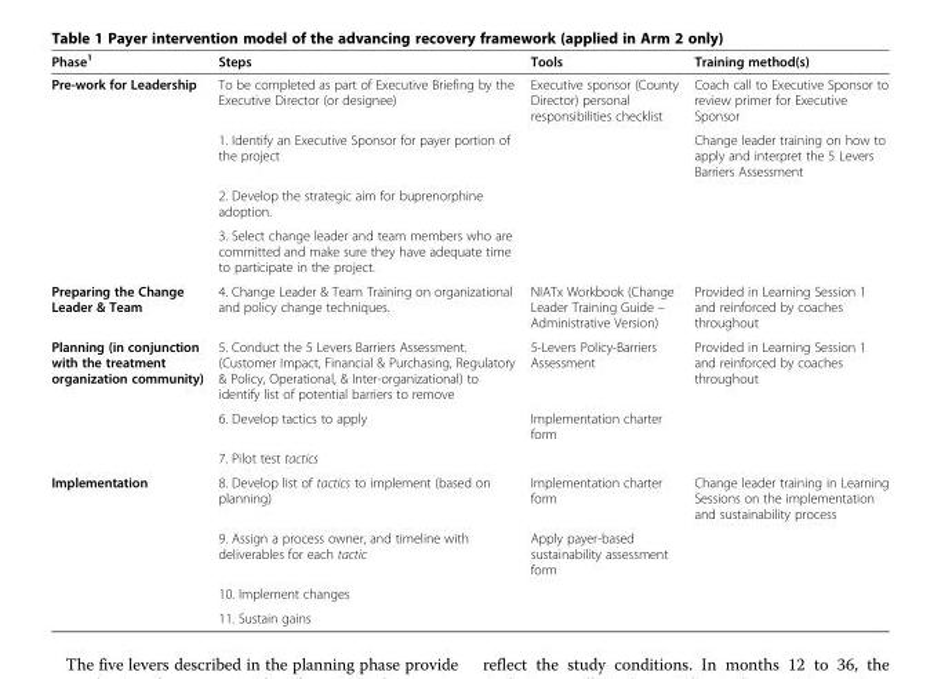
<table><thead><tr><td>Phase<sup>1</sup></td><td>Steps</td><td>Tools</td><td>Training method(s)</td></tr></thead><tbody><tr><td rowspan="4">Pre-work for Leadership</td><td>To be completed as part of Executive Briefing by the Executive Director (or designee)</td><td>Executive sponsor (County Director) personal responsibilities checklist</td><td>Coach call to Executive Sponsor to review primer for Executive Sponsor</td></tr><tr><td>1. Identify an Executive Sponsor for payer portion of the project</td><td></td><td>Change leader training on how to apply and interpret the 5 Levers Barriers Assessment</td></tr><tr><td>2. Develop the strategic aim for buprenorphine adoption.</td><td></td><td></td></tr><tr><td>3. Select change leader and team members who are committed and make sure they have adequate time to participate in the project.</td><td></td><td></td></tr><tr><td>Preparing the Change Leader &amp; Team</td><td>4. Change Leader &amp; Team Training on organizational and policy change techniques.</td><td>NIATx Workbook (Change Leader Training Guide – Administrative Version)</td><td>Provided in Learning Session 1 and reinforced by coaches throughout</td></tr><tr><td rowspan="3">Planning (in conjunction with the treatment organization community)</td><td>5. Conduct the 5 Levers Barriers Assessment. (Customer Impact, Financial &amp; Purchasing, Regulatory &amp; Policy, Operational, &amp; Inter-organizational) to identify list of potential barriers to remove</td><td>5-Levers Policy-Barriers Assessment</td><td>Provided in Learning Session 1 and reinforced by coaches throughout</td></tr><tr><td>6. Develop tactics to apply</td><td>Implementation charter form</td><td></td></tr><tr><td>7. Pilot test tactics</td><td></td><td></td></tr><tr><td rowspan="4">Implementation</td><td>8. Develop list of tactics to implement (based on planning)</td><td>Implementation charter form</td><td>Change leader training in Learning Sessions on the implementation and sustainability process</td></tr><tr><td>9. Assign a process owner, and timeline with deliverables for each tactic</td><td>Apply payer-based sustainability assessment form</td><td></td></tr><tr><td>10. Implement changes</td><td></td><td></td></tr><tr><td>11. Sustain gains</td><td></td><td></td></tr></tbody></table>